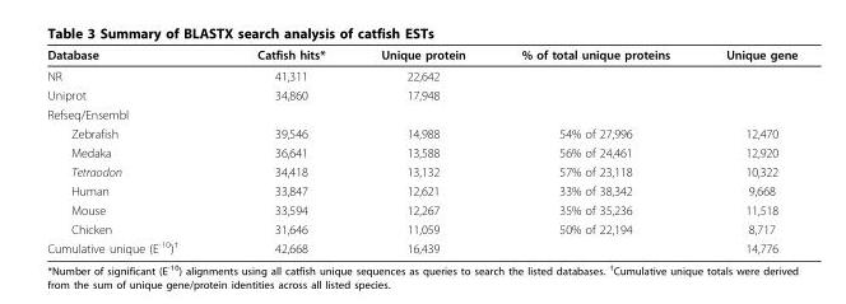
<table><thead><tr><td>Database</td><td>Catfish hits*</td><td>Unique protein</td><td>% of total unique proteins</td><td>Unique gene</td></tr></thead><tbody><tr><td>NR</td><td>41,311</td><td>22,642</td><td></td><td></td></tr><tr><td>Uniprot</td><td>34,860</td><td>17,948</td><td></td><td></td></tr><tr><td colspan="5">Refseq/Ensembl</td></tr><tr><td>Zebrafish</td><td>39,546</td><td>14,988</td><td>54% of 27,996</td><td>12,470</td></tr><tr><td>Medaka</td><td>36,641</td><td>13,588</td><td>56% of 24,461</td><td>12,920</td></tr><tr><td>Tetraodon</td><td>34,418</td><td>13,132</td><td>57% of 23,118</td><td>10,322</td></tr><tr><td>Human</td><td>33,847</td><td>12,621</td><td>33% of 38,342</td><td>9,668</td></tr><tr><td>Mouse</td><td>33,594</td><td>12,267</td><td>35% of 35,236</td><td>11,518</td></tr><tr><td>Chicken</td><td>31,646</td><td>11,059</td><td>50% of 22,194</td><td>8,717</td></tr><tr><td>Cumulative unique (E<sup>-10</sup>)<sup>†</sup></td><td>42,668</td><td>16,439</td><td></td><td>14,776</td></tr></tbody></table>